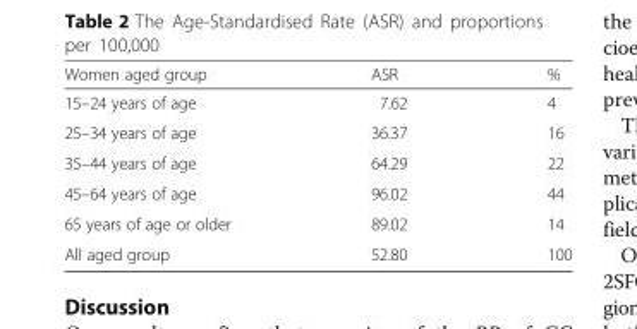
<table><thead><tr><td>Women aged group</td><td>ASR</td><td>%</td></tr></thead><tbody><tr><td>15–24 years of age</td><td>7.62</td><td>4</td></tr><tr><td>25–34 years of age</td><td>36.37</td><td>16</td></tr><tr><td>35–44 years of age</td><td>64.29</td><td>22</td></tr><tr><td>45–64 years of age</td><td>96.02</td><td>44</td></tr><tr><td>65 years of age or older</td><td>89.02</td><td>14</td></tr><tr><td>All aged group</td><td>52.80</td><td>100</td></tr></tbody></table>